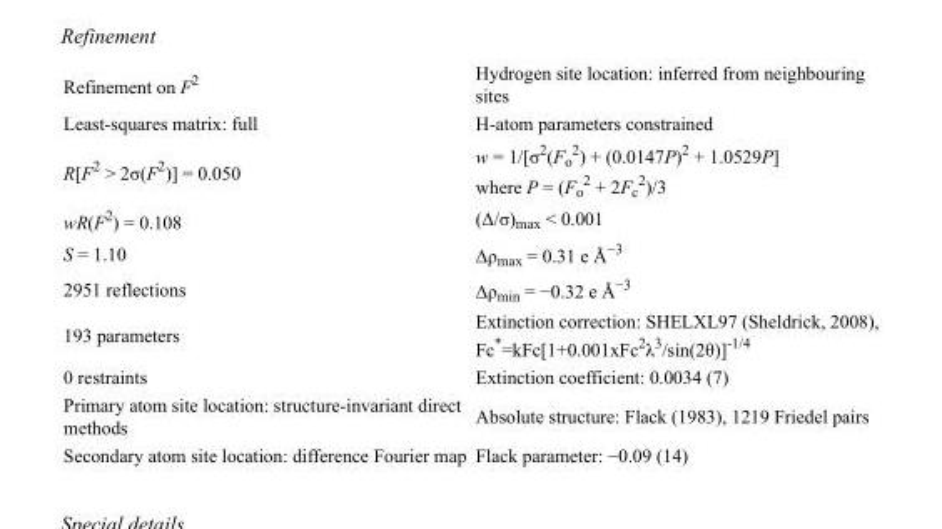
<table><tbody><tr><td>Refinement on F<sup>2</sup></td><td>Hydrogen site location: inferred from neighbouring sites</td></tr><tr><td>Least-squares matrix: full</td><td>H-atom parameters constrained</td></tr><tr><td>R[F<sup>2</sup> &gt; 2σ(F<sup>2</sup>)] = 0.050</td><td>w = 1/[σ<sup>2</sup>(F<sub>o</sub> <sup>2</sup>) + (0.0147P)<sup>2</sup> + 1.0529P] where P = (F<sub>o</sub> <sup>2</sup> + 2F<sub>c</sub> <sup>2</sup>)/3</td></tr><tr><td>wR(F<sup>2</sup>) = 0.108</td><td>(Δ/σ)<sub>max</sub> &lt; 0.001</td></tr><tr><td>S = 1.10</td><td>Δρ<sub>max</sub> = 0.31 e Å<sup>−3</sup></td></tr><tr><td>2951 reflections</td><td>Δρ<sub>min</sub> = −0.32 e Å<sup>−3</sup></td></tr><tr><td>193 parameters</td><td>Extinction correction: SHELXL97 (Sheldrick, 2008), Fc*=kFc[1+0.001xFc<sup>2</sup>λ<sup>3</sup>/sin(2θ)]<sup>-1/4</sup></td></tr><tr><td>0 restraints</td><td>Extinction coefficient: 0.0034 (7)</td></tr><tr><td>Primary atom site location: structure-invariant direct methods</td><td>Absolute structure: Flack (1983), 1219 Friedel pairs</td></tr><tr><td>Secondary atom site location: difference Fourier map</td><td>Flack parameter: −0.09 (14)</td></tr></tbody></table>